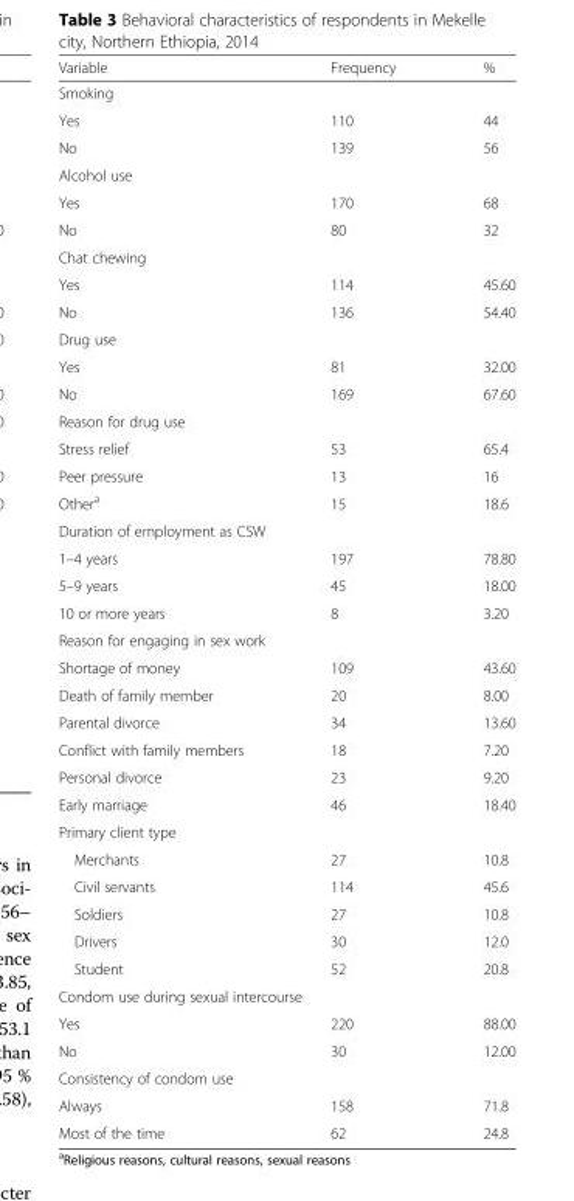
<table><thead><tr><td>Variable</td><td>Frequency</td><td>%</td></tr></thead><tbody><tr><td colspan="3">Smoking</td></tr><tr><td>Yes</td><td>110</td><td>44</td></tr><tr><td>No</td><td>139</td><td>56</td></tr><tr><td colspan="3">Alcohol use</td></tr><tr><td>Yes</td><td>170</td><td>68</td></tr><tr><td>No</td><td>80</td><td>32</td></tr><tr><td colspan="3">Chat chewing</td></tr><tr><td>Yes</td><td>114</td><td>45.60</td></tr><tr><td>No</td><td>136</td><td>54.40</td></tr><tr><td colspan="3">Drug use</td></tr><tr><td>Yes</td><td>81</td><td>32.00</td></tr><tr><td>No</td><td>169</td><td>67.60</td></tr><tr><td colspan="3">Reason for drug use</td></tr><tr><td>Stress relief</td><td>53</td><td>65.4</td></tr><tr><td>Peer pressure</td><td>13</td><td>16</td></tr><tr><td>Other<sup>a</sup></td><td>15</td><td>18.6</td></tr><tr><td colspan="3">Duration of employment as CSW</td></tr><tr><td>1–4 years</td><td>197</td><td>78.80</td></tr><tr><td>5–9 years</td><td>45</td><td>18.00</td></tr><tr><td>10 or more years</td><td>8</td><td>3.20</td></tr><tr><td colspan="3">Reason for engaging in sex work</td></tr><tr><td>Shortage of money</td><td>109</td><td>43.60</td></tr><tr><td>Death of family member</td><td>20</td><td>8.00</td></tr><tr><td>Parental divorce</td><td>34</td><td>13.60</td></tr><tr><td>Conflict with family members</td><td>18</td><td>7.20</td></tr><tr><td>Personal divorce</td><td>23</td><td>9.20</td></tr><tr><td>Early marriage</td><td>46</td><td>18.40</td></tr><tr><td colspan="3">Primary client type</td></tr><tr><td>Merchants</td><td>27</td><td>10.8</td></tr><tr><td>Civil servants</td><td>114</td><td>45.6</td></tr><tr><td>Soldiers</td><td>27</td><td>10.8</td></tr><tr><td>Drivers</td><td>30</td><td>12.0</td></tr><tr><td>Student</td><td>52</td><td>20.8</td></tr><tr><td colspan="3">Condom use during sexual intercourse</td></tr><tr><td>Yes</td><td>220</td><td>88.00</td></tr><tr><td>No</td><td>30</td><td>12.00</td></tr><tr><td colspan="3">Consistency of condom use</td></tr><tr><td>Always</td><td>158</td><td>71.8</td></tr><tr><td>Most of the time</td><td>62</td><td>24.8</td></tr></tbody></table>